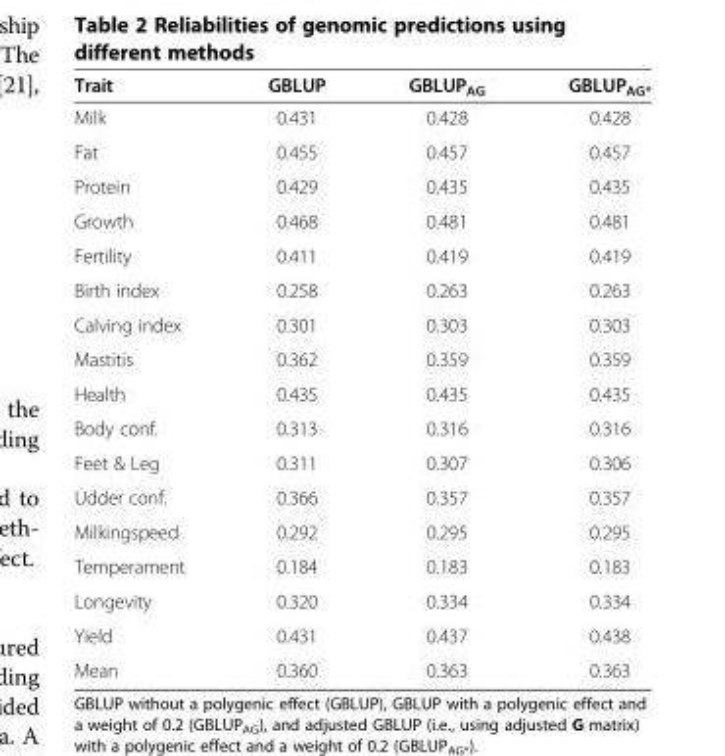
<table><thead><tr><td>Trait</td><td>GBLUP</td><td>GBLUP<sub>AG</sub></td><td>GBLUP<sub>AG*</sub></td></tr></thead><tbody><tr><td>Milk</td><td>0.431</td><td>0.428</td><td>0.428</td></tr><tr><td>Fat</td><td>0.455</td><td>0.457</td><td>0.457</td></tr><tr><td>Protein</td><td>0.429</td><td>0.435</td><td>0.435</td></tr><tr><td>Growth</td><td>0.468</td><td>0.481</td><td>0.481</td></tr><tr><td>Fertility</td><td>0.411</td><td>0.419</td><td>0.419</td></tr><tr><td>Birth index</td><td>0.258</td><td>0.263</td><td>0.263</td></tr><tr><td>Calving index</td><td>0.301</td><td>0.303</td><td>0.303</td></tr><tr><td>Mastitis</td><td>0.362</td><td>0.359</td><td>0.359</td></tr><tr><td>Health</td><td>0.435</td><td>0.435</td><td>0.435</td></tr><tr><td>Body conf.</td><td>0.313</td><td>0.316</td><td>0.316</td></tr><tr><td>Feet &amp; Leg</td><td>0.311</td><td>0.307</td><td>0.306</td></tr><tr><td>Udder conf.</td><td>0.366</td><td>0.357</td><td>0.357</td></tr><tr><td>Milkingspeed</td><td>0.292</td><td>0.295</td><td>0.295</td></tr><tr><td>Temperament</td><td>0.184</td><td>0.183</td><td>0.183</td></tr><tr><td>Longevity</td><td>0.320</td><td>0.334</td><td>0.334</td></tr><tr><td>Yield</td><td>0.431</td><td>0.437</td><td>0.438</td></tr><tr><td>Mean</td><td>0.360</td><td>0.363</td><td>0.363</td></tr></tbody></table>